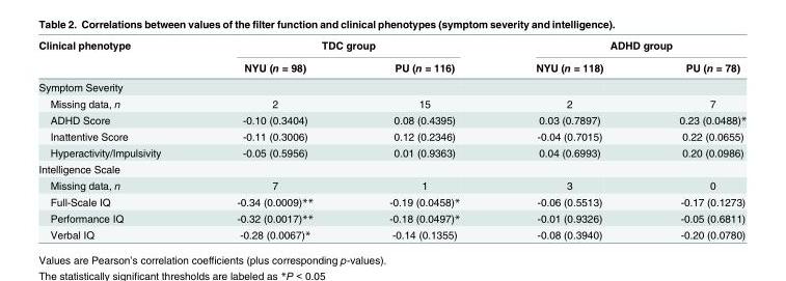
<table><thead><tr><td rowspan="2">Clinical phenotype</td><td colspan="2">TDC group</td><td colspan="2">ADHD group</td></tr><tr><td>NYU (n = 98)</td><td>PU (n = 116)</td><td>NYU (n = 118)</td><td>PU (n = 78)</td></tr></thead><tbody><tr><td colspan="5">Symptom Severity</td></tr><tr><td>Missing data, n</td><td>2</td><td>15</td><td>2</td><td>7</td></tr><tr><td>ADHD Score</td><td>-0.10 (0.3404)</td><td>0.08 (0.4395)</td><td>0.03 (0.7897)</td><td>0.23 (0.0488)*</td></tr><tr><td>Inattentive Score</td><td>-0.11 (0.3006)</td><td>0.12 (0.2346)</td><td>-0.04 (0.7015)</td><td>0.22 (0.0655)</td></tr><tr><td>Hyperactivity/Impulsivity</td><td>-0.05 (0.5956)</td><td>0.01 (0.9363)</td><td>0.04 (0.6993)</td><td>0.20 (0.0986)</td></tr><tr><td colspan="5">Intelligence Scale</td></tr><tr><td>Missing data, n</td><td>7</td><td>1</td><td>3</td><td>0</td></tr><tr><td>Full-Scale IQ</td><td>-0.34 (0.0009)**</td><td>-0.19 (0.0458)*</td><td>-0.06 (0.5513)</td><td>-0.17 (0.1273)</td></tr><tr><td>Performance IQ</td><td>-0.32 (0.0017)**</td><td>-0.18 (0.0497)*</td><td>-0.01 (0.9326)</td><td>-0.05 (0.6811)</td></tr><tr><td>Verbal IQ</td><td>-0.28 (0.0067)*</td><td>-0.14 (0.1355)</td><td>-0.08 (0.3940)</td><td>-0.20 (0.0780)</td></tr></tbody></table>